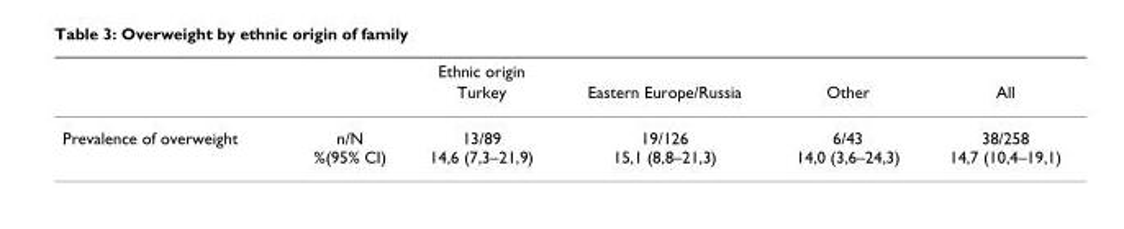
<table><thead><tr><td rowspan="2"></td><td rowspan="2"></td><td rowspan="2">Ethnic origin Turkey</td><td rowspan="2">Eastern Europe/Russia</td><td rowspan="2">Other</td><td rowspan="2">All</td></tr><tr></tr></thead><tbody><tr><td>Prevalence of overweight</td><td>n/N %(95% CI)</td><td>13/89 14,6 (7,3–21,9)</td><td>19/126 15,1 (8,8–21,3)</td><td>6/43 14,0 (3,6–24,3)</td><td>38/258 14,7 (10,4–19,1)</td></tr></tbody></table>